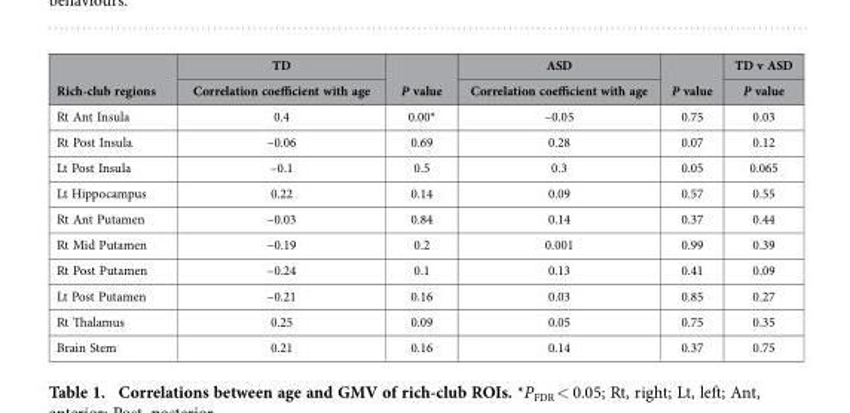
<table><thead><tr><td rowspan="2">Rich-club regions</td><td rowspan="2">TD Correlation coefficient with age</td><td rowspan="2">P value</td><td rowspan="2">ASD Correlation coefficient with age</td><td rowspan="2">P value</td><td rowspan="2">TD v ASD P value</td></tr><tr></tr></thead><tbody><tr><td>Rt Ant Insula</td><td>0.4</td><td>0.00*</td><td>–0.05</td><td>0.75</td><td>0.03</td></tr><tr><td>Rt Post Insula</td><td>–0.06</td><td>0.69</td><td>0.28</td><td>0.07</td><td>0.12</td></tr><tr><td>Lt Post Insula</td><td>–0.1</td><td>0.5</td><td>0.3</td><td>0.05</td><td>0.065</td></tr><tr><td>Lt Hippocampus</td><td>0.22</td><td>0.14</td><td>0.09</td><td>0.57</td><td>0.55</td></tr><tr><td>Rt Ant Putamen</td><td>–0.03</td><td>0.84</td><td>0.14</td><td>0.37</td><td>0.44</td></tr><tr><td>Rt Mid Putamen</td><td>–0.19</td><td>0.2</td><td>0.001</td><td>0.99</td><td>0.39</td></tr><tr><td>Rt Post Putamen</td><td>–0.24</td><td>0.1</td><td>0.13</td><td>0.41</td><td>0.09</td></tr><tr><td>Lt Post Putamen</td><td>–0.21</td><td>0.16</td><td>0.03</td><td>0.85</td><td>0.27</td></tr><tr><td>Rt Thalamus</td><td>0.25</td><td>0.09</td><td>0.05</td><td>0.75</td><td>0.35</td></tr><tr><td>Brain Stem</td><td>0.21</td><td>0.16</td><td>0.14</td><td>0.37</td><td>0.75</td></tr></tbody></table>